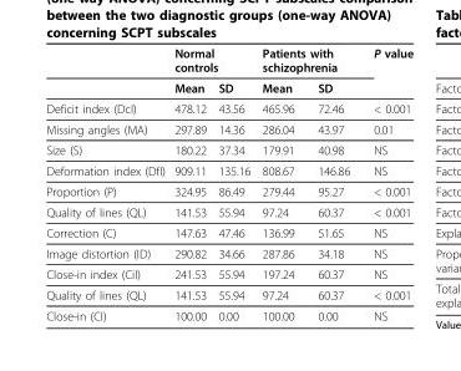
<table><thead><tr><td rowspan="2"></td><td colspan="2">Normal controls</td><td colspan="2">Patients with schizophrenia</td><td rowspan="2">P value</td></tr><tr><td>Mean</td><td>SD</td><td>Mean</td><td>SD</td></tr></thead><tbody><tr><td>Deficit index (DcI)</td><td>478.12</td><td>43.56</td><td>465.96</td><td>72.46</td><td>&lt; 0.001</td></tr><tr><td>Missing angles (MA)</td><td>297.89</td><td>14.36</td><td>286.04</td><td>43.97</td><td>0.01</td></tr><tr><td>Size (S)</td><td>180.22</td><td>37.34</td><td>179.91</td><td>40.98</td><td>NS</td></tr><tr><td>Deformation index (DfI)</td><td>909.11</td><td>135.16</td><td>808.67</td><td>146.86</td><td>NS</td></tr><tr><td>Proportion (P)</td><td>324.95</td><td>86.49</td><td>279.44</td><td>95.27</td><td>&lt; 0.001</td></tr><tr><td>Quality of lines (QL)</td><td>141.53</td><td>55.94</td><td>97.24</td><td>60.37</td><td>&lt; 0.001</td></tr><tr><td>Correction (C)</td><td>147.63</td><td>47.46</td><td>136.99</td><td>51.65</td><td>NS</td></tr><tr><td>Image distortion (ID)</td><td>290.82</td><td>34.66</td><td>287.86</td><td>34.18</td><td>NS</td></tr><tr><td>Close-in index (CiI)</td><td>241.53</td><td>55.94</td><td>197.24</td><td>60.37</td><td>NS</td></tr><tr><td>Quality of lines (QL)</td><td>141.53</td><td>55.94</td><td>97.24</td><td>60.37</td><td>&lt; 0.001</td></tr><tr><td>Close-in (CI)</td><td>100.00</td><td>0.00</td><td>100.00</td><td>0.00</td><td>NS</td></tr></tbody></table>